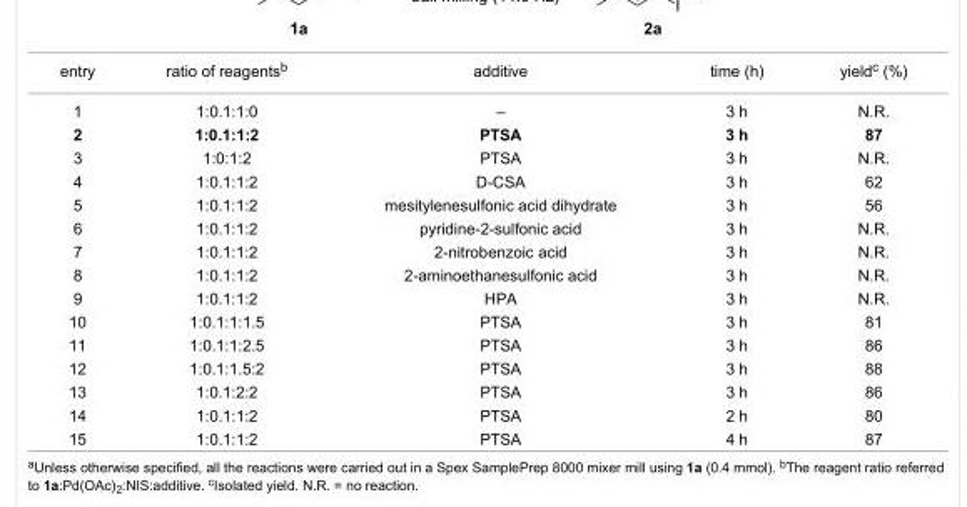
<table><tbody><tr><td>entry</td><td>ratio of reagents<sup>b</sup></td><td>additive</td><td>time (h)</td><td>yield<sup>c</sup> (%)</td></tr><tr><td>1</td><td>1:0.1:1:0</td><td>–</td><td>3 h</td><td>N.R.</td></tr><tr><td>2</td><td>1:0.1:1:2</td><td>PTSA</td><td>3 h</td><td>87</td></tr><tr><td>3</td><td>1:0:1:2</td><td>PTSA</td><td>3 h</td><td>N.R.</td></tr><tr><td>4</td><td>1:0.1:1:2</td><td>D-CSA</td><td>3 h</td><td>62</td></tr><tr><td>5</td><td>1:0.1:1:2</td><td>mesitylenesulfonic acid dihydrate</td><td>3 h</td><td>56</td></tr><tr><td>6</td><td>1:0.1:1:2</td><td>pyridine-2-sulfonic acid</td><td>3 h</td><td>N.R.</td></tr><tr><td>7</td><td>1:0.1:1:2</td><td>2-nitrobenzoic acid</td><td>3 h</td><td>N.R.</td></tr><tr><td>8</td><td>1:0.1:1:2</td><td>2-aminoethanesulfonic acid</td><td>3 h</td><td>N.R.</td></tr><tr><td>9</td><td>1:0.1:1:2</td><td>HPA</td><td>3 h</td><td>N.R.</td></tr><tr><td>10</td><td>1:0.1:1:1.5</td><td>PTSA</td><td>3 h</td><td>81</td></tr><tr><td>11</td><td>1:0.1:1:2.5</td><td>PTSA</td><td>3 h</td><td>86</td></tr><tr><td>12</td><td>1:0.1:1.5:2</td><td>PTSA</td><td>3 h</td><td>88</td></tr><tr><td>13</td><td>1:0.1:2:2</td><td>PTSA</td><td>3 h</td><td>86</td></tr><tr><td>14</td><td>1:0.1:1:2</td><td>PTSA</td><td>2 h</td><td>80</td></tr><tr><td>15</td><td>1:0.1:1:2</td><td>PTSA</td><td>4 h</td><td>87</td></tr></tbody></table>